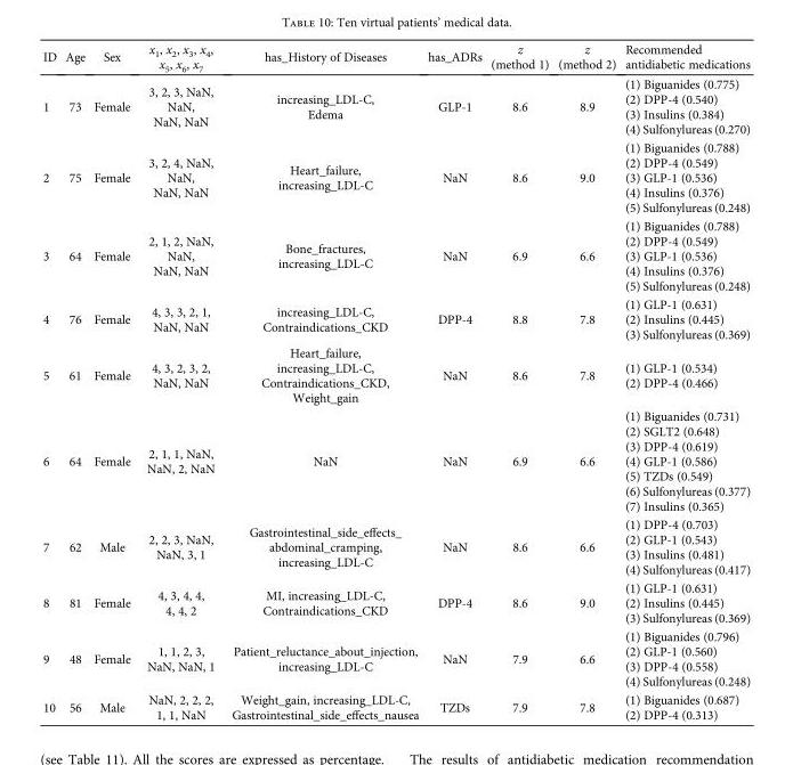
<table><thead><tr><td>ID</td><td>Age</td><td>Sex</td><td>x<sub>1</sub>, x<sub>2</sub>, x<sub>3</sub>, x<sub>4</sub>, x<sub>5</sub>, x<sub>6</sub>, x<sub>7</sub></td><td>has_History of Diseases</td><td>has_ADRs</td><td>z (method 1)</td><td>z (method 2)</td><td>Recommended antidiabetic medications</td></tr></thead><tbody><tr><td>1</td><td>73</td><td>Female</td><td>3, 2, 3, NaN, NaN, NaN, NaN</td><td>increasing_LDL-C, Edema</td><td>GLP-1</td><td>8.6</td><td>8.9</td><td>(1) Biguanides (0.775) (2) DPP-4 (0.540) (3) Insulins (0.384) (4) Sulfonylureas (0.270)</td></tr><tr><td>2</td><td>75</td><td>Female</td><td>3, 2, 4, NaN, NaN, NaN, NaN</td><td>Heart_failure, increasing_LDL-C</td><td>NaN</td><td>8.6</td><td>9.0</td><td>(1) Biguanides (0.788) (2) DPP-4 (0.549) (3) GLP-1 (0.536) (4) Insulins (0.376) (5) Sulfonylureas (0.248)</td></tr><tr><td>3</td><td>64</td><td>Female</td><td>2, 1, 2, NaN, NaN, NaN, NaN</td><td>Bone_fractures, increasing_LDL-C</td><td>NaN</td><td>6.9</td><td>6.6</td><td>(1) Biguanides (0.788) (2) DPP-4 (0.549) (3) GLP-1 (0.536) (4) Insulins (0.376) (5) Sulfonylureas (0.248)</td></tr><tr><td>4</td><td>76</td><td>Female</td><td>4, 3, 3, 2, 1, NaN, NaN</td><td>increasing_LDL-C, Contraindications_CKD</td><td>DPP-4</td><td>8.8</td><td>7.8</td><td>(1) GLP-1 (0.631) (2) Insulins (0.445) (3) Sulfonylureas (0.369)</td></tr><tr><td>5</td><td>61</td><td>Female</td><td>4, 3, 2, 3, 2, NaN, NaN</td><td>Heart_failure, increasing_LDL-C, Contraindications_CKD, Weight_gain</td><td>NaN</td><td>8.6</td><td>7.8</td><td>(1) GLP-1 (0.534) (2) DPP-4 (0.466)</td></tr><tr><td>6</td><td>64</td><td>Female</td><td>2, 1, 1, NaN, NaN, 2, NaN</td><td>NaN</td><td>NaN</td><td>6.9</td><td>6.6</td><td>(1) Biguanides (0.731) (2) SGLT2 (0.648) (3) DPP-4 (0.619) (4) GLP-1 (0.586) (5) TZDs (0.549) (6) Sulfonylureas (0.377) (7) Insulins (0.365)</td></tr><tr><td>7</td><td>62</td><td>Male</td><td>2, 2, 3, NaN, NaN, 3, 1</td><td>Gastrointestinal_side_effects_ abdominal_cramping, increasing_LDL-C</td><td>NaN</td><td>8.6</td><td>6.6</td><td>(1) DPP-4 (0.703) (2) GLP-1 (0.543) (3) Insulins (0.481) (4) Sulfonylureas (0.417)</td></tr><tr><td>8</td><td>81</td><td>Female</td><td>4, 3, 4, 4, 4, 4, 2</td><td>MI, increasing_LDL-C, Contraindications_CKD</td><td>DPP-4</td><td>8.6</td><td>9.0</td><td>(1) GLP-1 (0.631) (2) Insulins (0.445) (3) Sulfonylureas (0.369)</td></tr><tr><td>9</td><td>48</td><td>Female</td><td>1, 1, 2, 3, NaN, NaN, 1</td><td>Patient_reluctance_about_injection, increasing_LDL-C</td><td>NaN</td><td>7.9</td><td>6.6</td><td>(1) Biguanides (0.796) (2) GLP-1 (0.560) (3) DPP-4 (0.558) (4) Sulfonylureas (0.248)</td></tr><tr><td>10</td><td>56</td><td>Male</td><td>NaN, 2, 2, 2, 1, 1, NaN</td><td>Weight_gain, increasing_LDL-C, Gastrointestinal_side_effects_nausea</td><td>TZDs</td><td>7.9</td><td>7.8</td><td>(1) Biguanides (0.687) (2) DPP-4 (0.313)</td></tr></tbody></table>